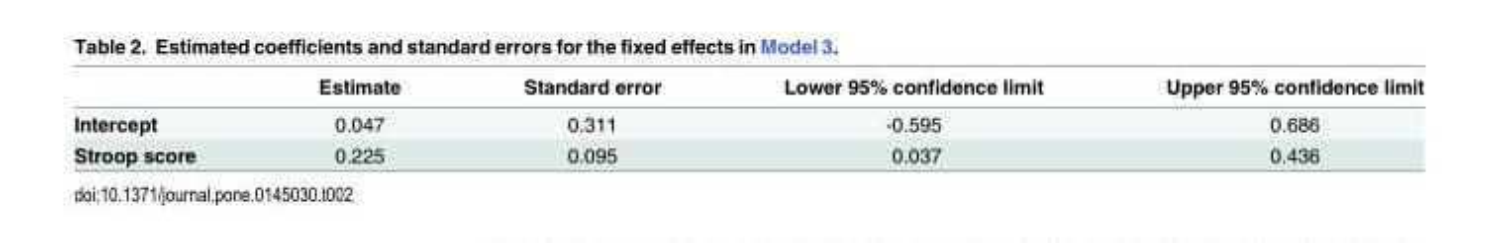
<table><thead><tr><td></td><td>Estimate</td><td>Standard error</td><td>Lower 95% confidence limit</td><td>Upper 95% confidence limit</td></tr></thead><tbody><tr><td>Intercept</td><td>0.047</td><td>0.311</td><td>-0.595</td><td>0.686</td></tr><tr><td>Stroop score</td><td>0.225</td><td>0.095</td><td>0.037</td><td>0.436</td></tr></tbody></table>